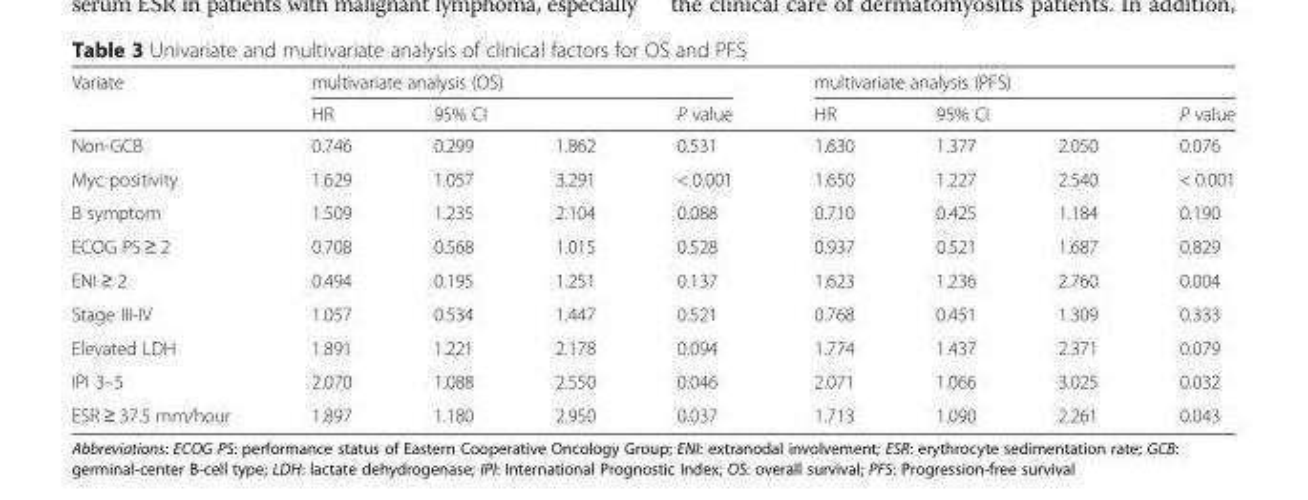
<table><thead><tr><td rowspan="3">Variate Non-GCB</td><td colspan="4">multivariate analysis (OS)</td><td colspan="4">multivariate analysis (PFS)</td></tr><tr><td rowspan="2">HR 0.746</td><td colspan="2">95% CI</td><td rowspan="2">P value 0.531</td><td rowspan="2">HR 1.630</td><td colspan="2">95% CI</td><td rowspan="2">P value 0.076</td></tr><tr><td>0.299</td><td>1.862</td><td>1.377</td><td>2.050</td></tr></thead><tbody><tr><td>Myc positivity</td><td>1.629</td><td>1.057</td><td>3.291</td><td>&lt; 0.001</td><td>1.650</td><td>1.227</td><td>2.540</td><td>&lt; 0.001</td></tr><tr><td>B symptom</td><td>1.509</td><td>1.235</td><td>2.104</td><td>0.088</td><td>0.710</td><td>0.425</td><td>1.184</td><td>0.190</td></tr><tr><td>ECOG PS ≥ 2</td><td>0.708</td><td>0.568</td><td>1.015</td><td>0.528</td><td>0.937</td><td>0.521</td><td>1.687</td><td>0.829</td></tr><tr><td>ENI ≥ 2</td><td>0.494</td><td>0.195</td><td>1.251</td><td>0.137</td><td>1.623</td><td>1.236</td><td>2.760</td><td>0.004</td></tr><tr><td>Stage III-IV</td><td>1.057</td><td>0.534</td><td>1.447</td><td>0.521</td><td>0.768</td><td>0.451</td><td>1.309</td><td>0.333</td></tr><tr><td>Elevated LDH</td><td>1.891</td><td>1.221</td><td>2.178</td><td>0.094</td><td>1.774</td><td>1.437</td><td>2.371</td><td>0.079</td></tr><tr><td>IPI 3–5</td><td>2.070</td><td>1.088</td><td>2.550</td><td>0.046</td><td>2.071</td><td>1.066</td><td>3.025</td><td>0.032</td></tr><tr><td>ESR ≥ 37.5 mm/hour</td><td>1.897</td><td>1.180</td><td>2.950</td><td>0.037</td><td>1.713</td><td>1.090</td><td>2.261</td><td>0.043</td></tr></tbody></table>